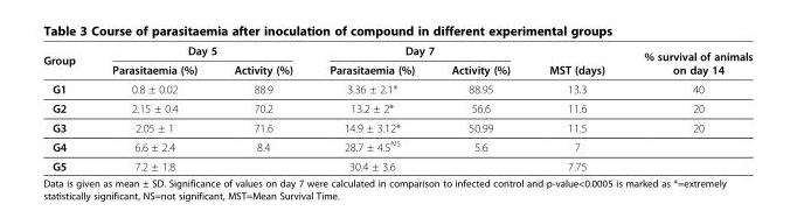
<table><thead><tr><td rowspan="2">Group</td><td colspan="2">Day 5</td><td colspan="2">Day 7</td><td rowspan="2">MST (days)</td><td rowspan="2">% survival of animals on day 14</td></tr><tr><td>Parasitaemia (%)</td><td>Activity (%)</td><td>Parasitaemia (%)</td><td>Activity (%)</td></tr></thead><tbody><tr><td>G1</td><td>0.8 ± 0.02</td><td>88.9</td><td>3.36 ± 2.1*</td><td>88.95</td><td>13.3</td><td>40</td></tr><tr><td>G2</td><td>2.15 ± 0.4</td><td>70.2</td><td>13.2 ± 2*</td><td>56.6</td><td>11.6</td><td>20</td></tr><tr><td>G3</td><td>2.05 ± 1</td><td>71.6</td><td>14.9 ± 3.12*</td><td>50.99</td><td>11.5</td><td>20</td></tr><tr><td>G4</td><td>6.6 ± 2.4</td><td>8.4</td><td>28.7 ± 4.5<sup>NS</sup></td><td>5.6</td><td>7</td><td></td></tr><tr><td>G5</td><td>7.2 ± 1.8</td><td></td><td>30.4 ± 3.6</td><td></td><td>7.75</td><td></td></tr></tbody></table>